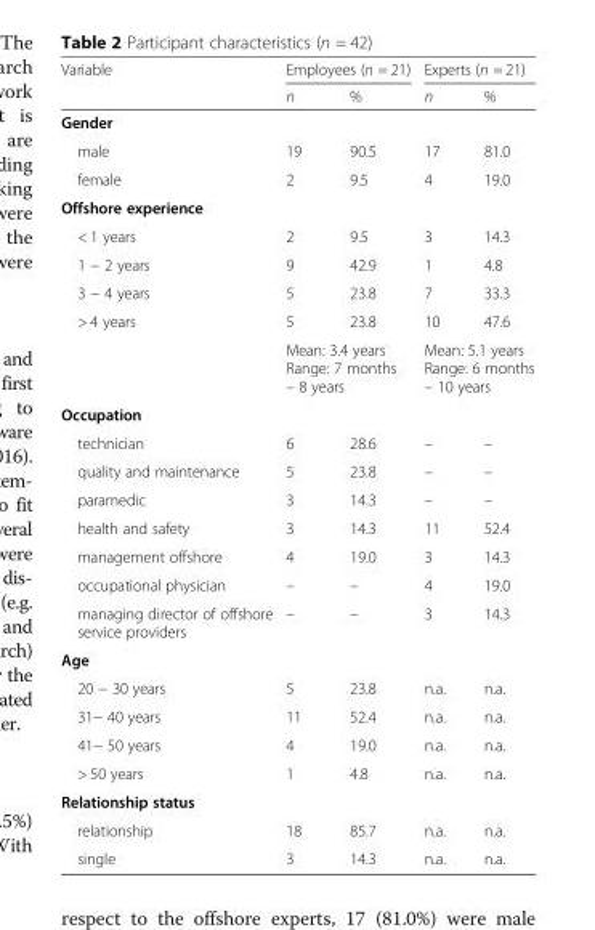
<table><thead><tr><td rowspan="2">Variable</td><td colspan="2">Employees (n = 21)</td><td colspan="2">Experts (n = 21)</td></tr><tr><td>n</td><td>%</td><td>n</td><td>%</td></tr></thead><tbody><tr><td colspan="5">Gender</td></tr><tr><td>male</td><td>19</td><td>90.5</td><td>17</td><td>81.0</td></tr><tr><td>female</td><td>2</td><td>9.5</td><td>4</td><td>19.0</td></tr><tr><td colspan="5">Offshore experience</td></tr><tr><td>&lt; 1 years</td><td>2</td><td>9.5</td><td>3</td><td>14.3</td></tr><tr><td>1 − 2 years</td><td>9</td><td>42.9</td><td>1</td><td>4.8</td></tr><tr><td>3 − 4 years</td><td>5</td><td>23.8</td><td>7</td><td>33.3</td></tr><tr><td rowspan="2">&gt; 4 years</td><td>5</td><td>23.8</td><td>10</td><td>47.6</td></tr><tr><td colspan="2">Mean: 3.4 years Range: 7 months – 8 years</td><td colspan="2">Mean: 5.1 years Range: 6 months – 10 years</td></tr><tr><td colspan="5">Occupation</td></tr><tr><td>technician</td><td>6</td><td>28.6</td><td>–</td><td>–</td></tr><tr><td>quality and maintenance</td><td>5</td><td>23.8</td><td>–</td><td>–</td></tr><tr><td>paramedic</td><td>3</td><td>14.3</td><td>–</td><td>–</td></tr><tr><td>health and safety</td><td>3</td><td>14.3</td><td>11</td><td>52.4</td></tr><tr><td>management offshore</td><td>4</td><td>19.0</td><td>3</td><td>14.3</td></tr><tr><td>occupational physician</td><td>–</td><td>–</td><td>4</td><td>19.0</td></tr><tr><td>managing director of offshore service providers</td><td>–</td><td>–</td><td>3</td><td>14.3</td></tr><tr><td colspan="5">Age</td></tr><tr><td>20 − 30 years</td><td>5</td><td>23.8</td><td>n.a.</td><td>n.a.</td></tr><tr><td>31− 40 years</td><td>11</td><td>52.4</td><td>n.a.</td><td>n.a.</td></tr><tr><td>41− 50 years</td><td>4</td><td>19.0</td><td>n.a.</td><td>n.a.</td></tr><tr><td>&gt; 50 years</td><td>1</td><td>4.8</td><td>n.a.</td><td>n.a.</td></tr><tr><td colspan="5">Relationship status</td></tr><tr><td>relationship</td><td>18</td><td>85.7</td><td>n.a.</td><td>n.a.</td></tr><tr><td>single</td><td>3</td><td>14.3</td><td>n.a.</td><td>n.a.</td></tr></tbody></table>